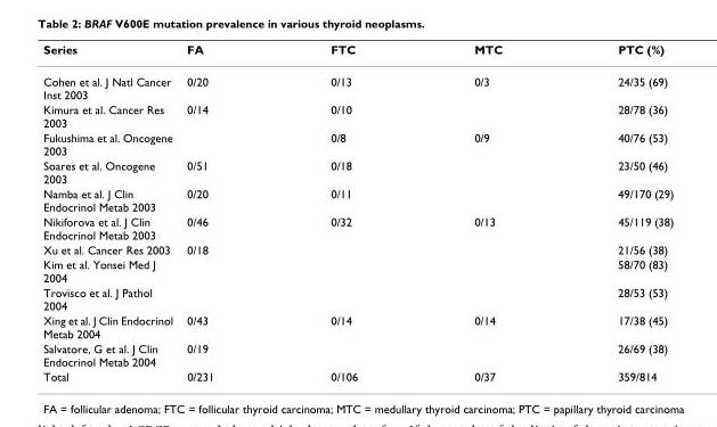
<table><thead><tr><td>Series</td><td>FA</td><td>FTC</td><td>MTC</td><td>PTC (%)</td></tr></thead><tbody><tr><td>Cohen et al. J Natl Cancer Inst 2003</td><td>0/20</td><td>0/13</td><td>0/3</td><td>24/35 (69)</td></tr><tr><td>Kimura et al. Cancer Res 2003</td><td>0/14</td><td>0/10</td><td></td><td>28/78 (36)</td></tr><tr><td>Fukushima et al. Oncogene 2003</td><td></td><td>0/8</td><td>0/9</td><td>40/76 (53)</td></tr><tr><td>Soares et al. Oncogene 2003</td><td>0/51</td><td>0/18</td><td></td><td>23/50 (46)</td></tr><tr><td>Namba et al. J Clin Endocrinol Metab 2003</td><td>0/20</td><td>0/11</td><td></td><td>49/170 (29)</td></tr><tr><td>Nikiforova et al. J Clin Endocrinol Metab 2003</td><td>0/46</td><td>0/32</td><td>0/13</td><td>45/119 (38)</td></tr><tr><td>Xu et al. Cancer Res 2003</td><td>0/18</td><td></td><td></td><td>21/56 (38)</td></tr><tr><td>Kim et al. Yonsei Med J 2004</td><td></td><td></td><td></td><td>58/70 (83)</td></tr><tr><td>Trovisco et al. J Pathol 2004</td><td></td><td></td><td></td><td>28/53 (53)</td></tr><tr><td>Xing et al. J Clin Endocrinol Metab 2004</td><td>0/43</td><td>0/14</td><td>0/14</td><td>17/38 (45)</td></tr><tr><td>Salvatore, G et al. J Clin Endocrinol Metab 2004</td><td>0/19</td><td></td><td></td><td>26/69 (38)</td></tr><tr><td>Total</td><td>0/231</td><td>0/106</td><td>0/37</td><td>359/814</td></tr></tbody></table>